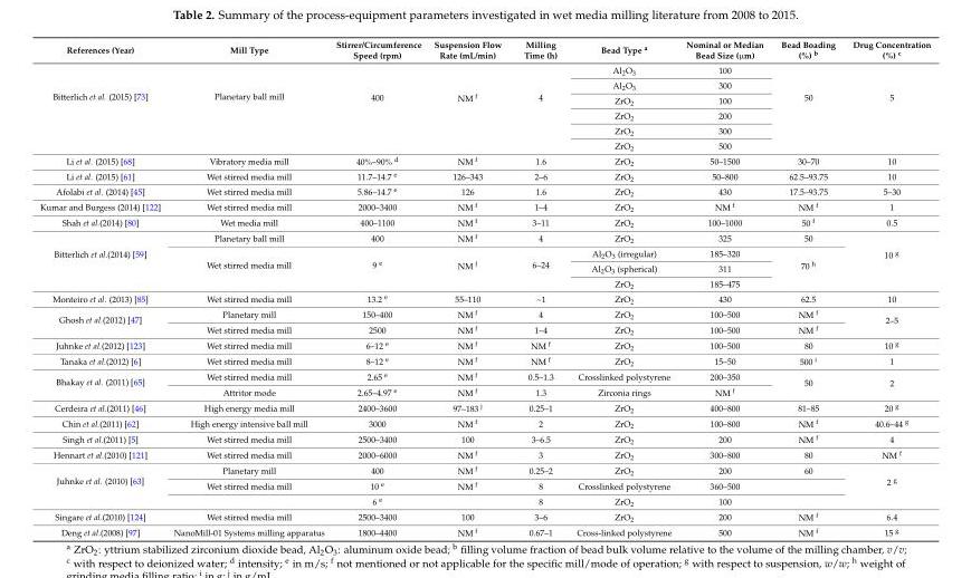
<table><thead><tr><td>References (Year)</td><td>Mill Type</td><td>Stirrer/Circumference Speed (rpm)</td><td>Suspension Flow Rate (mL/min)</td><td>Milling Time (h)</td><td>Bead Type <sup>a</sup></td><td>Nominal or Median Bead Size (µm)</td><td>Bead Boading (%) <sup>b</sup></td><td>Drug Concentration (%) <sup>c</sup></td></tr></thead><tbody><tr><td rowspan="6">Bitterlich et al. (2015) [73]</td><td rowspan="6">Planetary ball mill</td><td rowspan="6">400</td><td rowspan="6">NM <sup>f</sup></td><td rowspan="6">4</td><td>Al<sub>2</sub>O<sub>3</sub></td><td>100</td><td rowspan="6">50</td><td rowspan="6">5</td></tr><tr><td>Al<sub>2</sub>O<sub>3</sub></td><td>300</td></tr><tr><td>ZrO<sub>2</sub></td><td>100</td></tr><tr><td>ZrO<sub>2</sub></td><td>200</td></tr><tr><td>ZrO<sub>2</sub></td><td>300</td></tr><tr><td>ZrO<sub>2</sub></td><td>500</td></tr><tr><td>Li et al. (2015) [68]</td><td>Vibratory media mill</td><td>40%–90% <sup>d</sup></td><td>NM <sup>f</sup></td><td>1.6</td><td>ZrO<sub>2</sub></td><td>50–1500</td><td>30–70</td><td>10</td></tr><tr><td>Li et al. (2015) [61]</td><td>Wet stirred media mill</td><td>11.7–14.7 <sup>e</sup></td><td>126–343</td><td>2–6</td><td>ZrO<sub>2</sub></td><td>50–800</td><td>62.5–93.75</td><td>10</td></tr><tr><td>Afolabi et al. (2014) [45]</td><td>Wet stirred media mill</td><td>5.86–14.7 <sup>e</sup></td><td>126</td><td>1.6</td><td>ZrO<sub>2</sub></td><td>430</td><td>17.5–93.75</td><td>5–30</td></tr><tr><td>Kumar and Burgess (2014) [122]</td><td>Wet stirred media mill</td><td>2000–3400</td><td>NM <sup>f</sup></td><td>1–4</td><td>ZrO<sub>2</sub></td><td>NM <sup>f</sup></td><td>NM <sup>f</sup></td><td>1</td></tr><tr><td>Shah et al.(2014) [80]</td><td>Wet media mill</td><td>400–1100</td><td>NM <sup>f</sup></td><td>3–11</td><td>ZrO<sub>2</sub></td><td>100–1000</td><td>50 <sup>f</sup></td><td>0.5</td></tr><tr><td rowspan="4">Bitterlich et al.(2014) [59]</td><td>Planetary ball mill</td><td>400</td><td>NM <sup>f</sup></td><td>4</td><td>ZrO<sub>2</sub></td><td>325</td><td>50</td><td rowspan="4">10 <sup>g</sup></td></tr><tr><td rowspan="3">Wet stirred media mill</td><td rowspan="3">9 <sup>e</sup></td><td rowspan="3">NM <sup>f</sup></td><td rowspan="3">6–24</td><td>Al<sub>2</sub>O<sub>3</sub> (irregular)</td><td>185–320</td><td rowspan="3">70 <sup>h</sup></td></tr><tr><td>Al<sub>2</sub>O<sub>3</sub> (spherical)</td><td>311</td></tr><tr><td>ZrO<sub>2</sub></td><td>185–475</td></tr><tr><td>Monteiro et al. (2013) [85]</td><td>Wet stirred media mill</td><td>13.2 <sup>e</sup></td><td>55–110</td><td>~1</td><td>ZrO<sub>2</sub></td><td>430</td><td>62.5</td><td>10</td></tr><tr><td rowspan="2">Ghosh et al.(2012) [47]</td><td>Planetary mill</td><td>150–400</td><td>NM <sup>f</sup></td><td>4</td><td>ZrO<sub>2</sub></td><td>100–500</td><td>NM <sup>f</sup></td><td rowspan="2">2–5</td></tr><tr><td>Wet stirred media mill</td><td>2500</td><td>NM <sup>f</sup></td><td>1–4</td><td>ZrO<sub>2</sub></td><td>100–500</td><td>NM <sup>f</sup></td></tr><tr><td>Juhnke et al.(2012) [123]</td><td>Wet stirred media mill</td><td>6–12 <sup>e</sup></td><td>NM <sup>f</sup></td><td>NM <sup>f</sup></td><td>ZrO<sub>2</sub></td><td>100–500</td><td>80</td><td>10 <sup>g</sup></td></tr><tr><td>Tanaka et al.(2012) [6]</td><td>Wet stirred media mill</td><td>8–12 <sup>e</sup></td><td>NM <sup>f</sup></td><td>NM <sup>f</sup></td><td>ZrO<sub>2</sub></td><td>15–50</td><td>500 <sup>i</sup></td><td>1</td></tr><tr><td rowspan="2">Bhakay et al. (2011) [65]</td><td>Wet stirred media mill</td><td>2.65 <sup>e</sup></td><td>NM <sup>f</sup></td><td>0.5–1.3</td><td>Crosslinked polystyrene</td><td>200–350</td><td rowspan="2">50</td><td rowspan="2">2</td></tr><tr><td>Attritor mode</td><td>2.65–4.97 <sup>e</sup></td><td>NM <sup>f</sup></td><td>1.3</td><td>Zirconia rings</td><td>NM <sup>f</sup></td></tr><tr><td>Cerdeira et al.(2011) [46]</td><td>High energy media mill</td><td>2400–3600</td><td>97–183 <sup>j</sup></td><td>0.25–1</td><td>ZrO<sub>2</sub></td><td>400–800</td><td>81–85</td><td>20 <sup>g</sup></td></tr><tr><td>Chin et al.(2011) [62]</td><td>High energy intensive ball mill</td><td>3000</td><td>NM <sup>f</sup></td><td>2</td><td>ZrO<sub>2</sub></td><td>100–800</td><td>NM <sup>f</sup></td><td>40.6–44 <sup>g</sup></td></tr><tr><td>Singh et al.(2011) [5]</td><td>Wet stirred media mill</td><td>2500–3400</td><td>100</td><td>3–6.5</td><td>ZrO<sub>2</sub></td><td>200</td><td>NM <sup>f</sup></td><td>4</td></tr><tr><td>Hennart et al.(2010) [121]</td><td>Wet stirred media mill</td><td>2000–6000</td><td>NM <sup>f</sup></td><td>3</td><td>ZrO<sub>2</sub></td><td>300–800</td><td>80</td><td>NM <sup>f</sup></td></tr><tr><td rowspan="3">Juhnke et al. (2010) [63]</td><td>Planetary mill</td><td>400</td><td>NM <sup>f</sup></td><td>0.25–2</td><td>ZrO<sub>2</sub></td><td>200</td><td>60</td><td rowspan="3">2 <sup>g</sup></td></tr><tr><td>Wet stirred media mill</td><td>10 <sup>e</sup></td><td>NM <sup>f</sup></td><td>8</td><td>Crosslinked polystyrene</td><td>360–500</td><td></td></tr><tr><td></td><td>6 <sup>e</sup></td><td></td><td>8</td><td>ZrO<sub>2</sub></td><td>100</td><td></td></tr><tr><td>Singare et al.(2010) [124]</td><td>Wet stirred media mill</td><td>2500–3400</td><td>100</td><td>3–6</td><td>ZrO<sub>2</sub></td><td>200</td><td>NM <sup>f</sup></td><td>6.4</td></tr><tr><td>Deng et al.(2008) [97]</td><td>NanoMill-01 Systems milling apparatus</td><td>1800–4400</td><td>NM <sup>f</sup></td><td>0.67–1</td><td>Cross-linked polystyrene</td><td>500</td><td>NM <sup>f</sup></td><td>15 <sup>g</sup></td></tr></tbody></table>